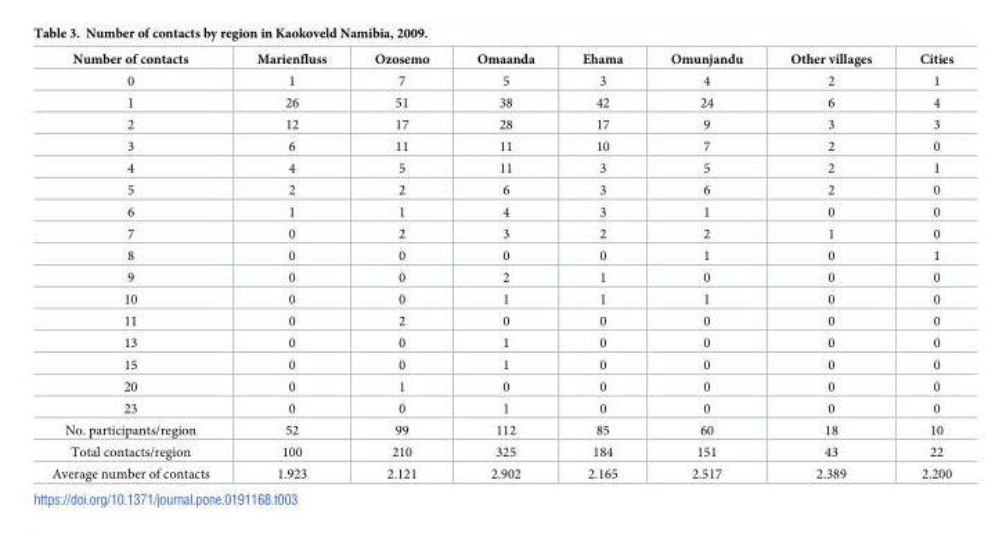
<table><thead><tr><td>Number of contacts</td><td>Marienfluss</td><td>Ozosemo</td><td>Omaanda</td><td>Ehama</td><td>Omunjandu</td><td>Other villages</td><td>Cities</td></tr></thead><tbody><tr><td>0</td><td>1</td><td>7</td><td>5</td><td>3</td><td>4</td><td>2</td><td>1</td></tr><tr><td>1</td><td>26</td><td>51</td><td>38</td><td>42</td><td>24</td><td>6</td><td>4</td></tr><tr><td>2</td><td>12</td><td>17</td><td>28</td><td>17</td><td>9</td><td>3</td><td>3</td></tr><tr><td>3</td><td>6</td><td>11</td><td>11</td><td>10</td><td>7</td><td>2</td><td>0</td></tr><tr><td>4</td><td>4</td><td>5</td><td>11</td><td>3</td><td>5</td><td>2</td><td>1</td></tr><tr><td>5</td><td>2</td><td>2</td><td>6</td><td>3</td><td>6</td><td>2</td><td>0</td></tr><tr><td>6</td><td>1</td><td>1</td><td>4</td><td>3</td><td>1</td><td>0</td><td>0</td></tr><tr><td>7</td><td>0</td><td>2</td><td>3</td><td>2</td><td>2</td><td>1</td><td>0</td></tr><tr><td>8</td><td>0</td><td>0</td><td>0</td><td>0</td><td>1</td><td>0</td><td>1</td></tr><tr><td>9</td><td>0</td><td>0</td><td>2</td><td>1</td><td>0</td><td>0</td><td>0</td></tr><tr><td>10</td><td>0</td><td>0</td><td>1</td><td>1</td><td>1</td><td>0</td><td>0</td></tr><tr><td>11</td><td>0</td><td>2</td><td>0</td><td>0</td><td>0</td><td>0</td><td>0</td></tr><tr><td>13</td><td>0</td><td>0</td><td>1</td><td>0</td><td>0</td><td>0</td><td>0</td></tr><tr><td>15</td><td>0</td><td>0</td><td>1</td><td>0</td><td>0</td><td>0</td><td>0</td></tr><tr><td>20</td><td>0</td><td>1</td><td>0</td><td>0</td><td>0</td><td>0</td><td>0</td></tr><tr><td>23</td><td>0</td><td>0</td><td>1</td><td>0</td><td>0</td><td>0</td><td>0</td></tr><tr><td>No. participants/region</td><td>52</td><td>99</td><td>112</td><td>85</td><td>60</td><td>18</td><td>10</td></tr><tr><td>Total contacts/region</td><td>100</td><td>210</td><td>325</td><td>184</td><td>151</td><td>43</td><td>22</td></tr><tr><td>Average number of contacts</td><td>1.923</td><td>2.121</td><td>2.902</td><td>2.165</td><td>2.517</td><td>2.389</td><td>2.200</td></tr></tbody></table>